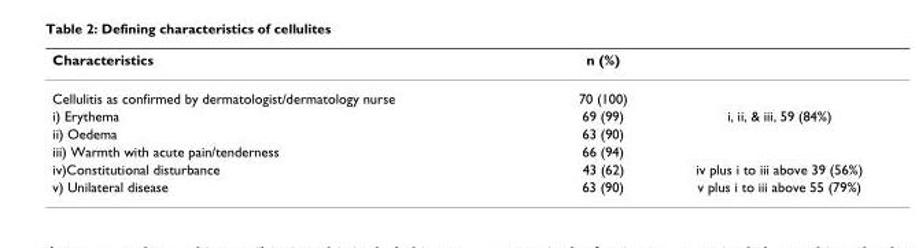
<table><thead><tr><td>Characteristics</td><td>n (%)</td><td></td></tr></thead><tbody><tr><td>Cellulitis as confirmed by dermatologist/dermatology nurse</td><td>70 (100)</td><td></td></tr><tr><td>i) Erythema</td><td>69 (99)</td><td>i, ii, &amp; iii, 59 (84%)</td></tr><tr><td>ii) Oedema</td><td>63 (90)</td><td></td></tr><tr><td>iii) Warmth with acute pain/tenderness</td><td>66 (94)</td><td></td></tr><tr><td>iv)Constitutional disturbance</td><td>43 (62)</td><td>iv plus i to iii above 39 (56%)</td></tr><tr><td>v) Unilateral disease</td><td>63 (90)</td><td>v plus i to iii above 55 (79%)</td></tr></tbody></table>